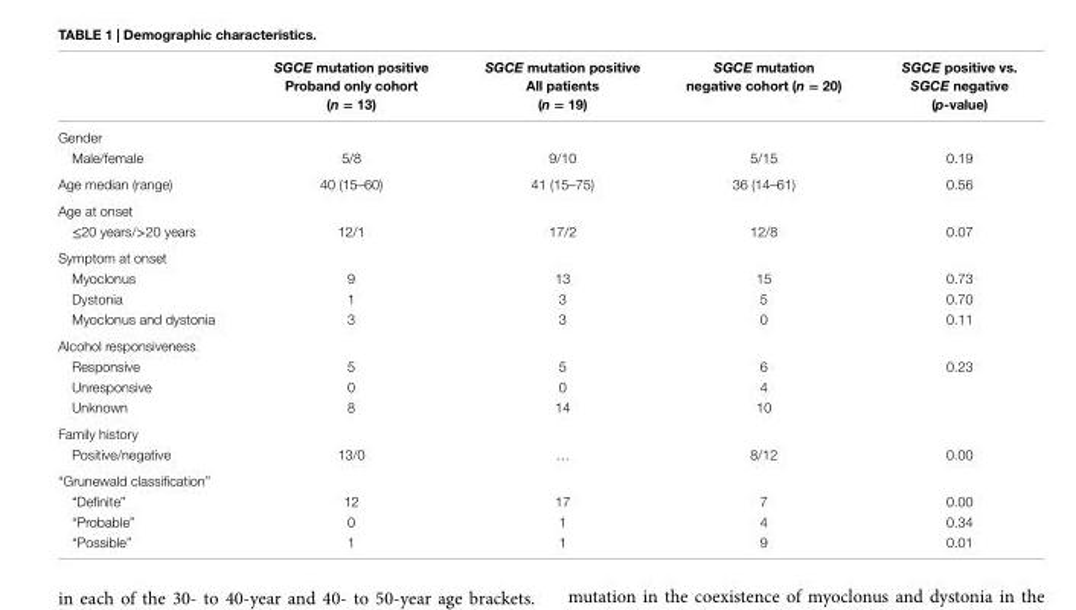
<table><thead><tr><td></td><td>SGCE mutation positive Proband only cohort (n = 13)</td><td>SGCE mutation positive all patients (n = 19)</td><td>SGCE mutation negative cohort (n = 20)</td><td>SGCE positive vs. SGCE negative (p-value)</td></tr></thead><tbody><tr><td colspan="5">Gender</td></tr><tr><td>Male/female</td><td>5/8</td><td>9/10</td><td>5/15</td><td>0.19</td></tr><tr><td>Age median (range)</td><td>40 (15–60)</td><td>41 (15–75)</td><td>36 (14–61)</td><td>0.56</td></tr><tr><td colspan="5">Age at onset</td></tr><tr><td>≤20 years/&gt;20 years</td><td>12/1</td><td>17/2</td><td>12/8</td><td>0.07</td></tr><tr><td colspan="5">Symptom at onset</td></tr><tr><td>Myoclonus</td><td>9</td><td>13</td><td>15</td><td>0.73</td></tr><tr><td>Dystonia</td><td>1</td><td>3</td><td>5</td><td>0.70</td></tr><tr><td>Myoclonus and dystonia</td><td>3</td><td>3</td><td>0</td><td>0.11</td></tr><tr><td colspan="5">Alcohol responsiveness</td></tr><tr><td>Responsive</td><td>5</td><td>5</td><td>6</td><td>0.23</td></tr><tr><td>Unresponsive</td><td>0</td><td>0</td><td>4</td><td></td></tr><tr><td>Unknown</td><td>8</td><td>14</td><td>10</td><td></td></tr><tr><td colspan="5">Family history</td></tr><tr><td>Positive/negative</td><td>13/0</td><td>…</td><td>8/12</td><td>0.00</td></tr><tr><td colspan="5">“Grunewald classification”</td></tr><tr><td>“Definite”</td><td>12</td><td>17</td><td>7</td><td>0.00</td></tr><tr><td>“Probable”</td><td>0</td><td>1</td><td>4</td><td>0.34</td></tr><tr><td>“Possible”</td><td>1</td><td>1</td><td>9</td><td>0.01</td></tr></tbody></table>